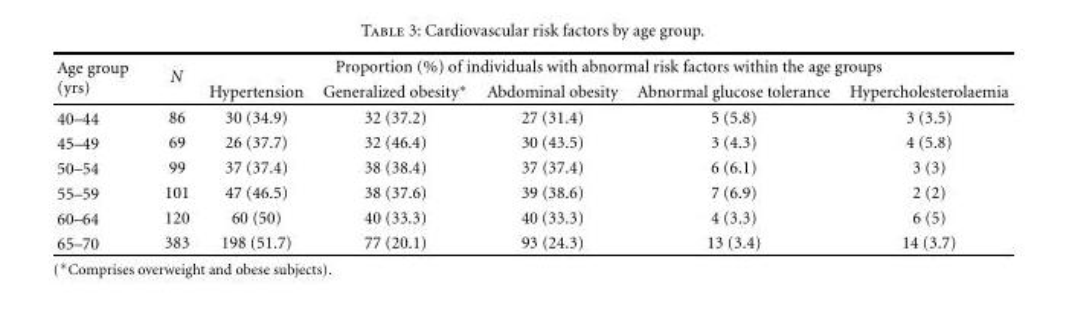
<table><thead><tr><td rowspan="2">Age group (yrs)</td><td rowspan="2">N</td><td colspan="5">Proportion (%) of individuals with abnormal risk factors within the age groups</td></tr><tr><td>Hypertension</td><td>Generalized obesity∗</td><td>Abdominal obesity</td><td>Abnormal glucose tolerance</td><td>Hypercholesterolaemia</td></tr></thead><tbody><tr><td>40–44</td><td>86</td><td>30 (34.9)</td><td>32 (37.2)</td><td>27 (31.4)</td><td>5 (5.8)</td><td>3 (3.5)</td></tr><tr><td>45–49</td><td>69</td><td>26 (37.7)</td><td>32 (46.4)</td><td>30 (43.5)</td><td>3 (4.3)</td><td>4 (5.8)</td></tr><tr><td>50–54</td><td>99</td><td>37 (37.4)</td><td>38 (38.4)</td><td>37 (37.4)</td><td>6 (6.1)</td><td>3 (3)</td></tr><tr><td>55–59</td><td>101</td><td>47 (46.5)</td><td>38 (37.6)</td><td>39 (38.6)</td><td>7 (6.9)</td><td>2 (2)</td></tr><tr><td>60–64</td><td>120</td><td>60 (50)</td><td>40 (33.3)</td><td>40 (33.3)</td><td>4 (3.3)</td><td>6 (5)</td></tr><tr><td>65–70</td><td>383</td><td>198 (51.7)</td><td>77 (20.1)</td><td>93 (24.3)</td><td>13 (3.4)</td><td>14 (3.7)</td></tr></tbody></table>